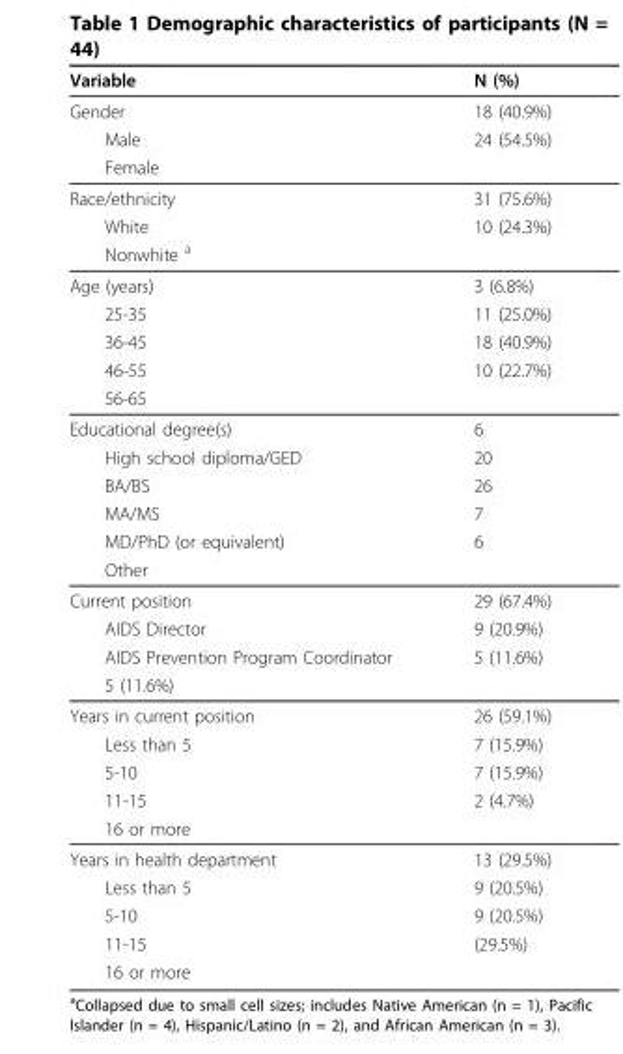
<table><thead><tr><td>Variable</td><td>N (%)</td></tr></thead><tbody><tr><td>Gender</td><td>18 (40.9%)</td></tr><tr><td>Male</td><td>24 (54.5%)</td></tr><tr><td colspan="2">Female</td></tr><tr><td>Race/ethnicity</td><td>31 (75.6%)</td></tr><tr><td>White</td><td>10 (24.3%)</td></tr><tr><td colspan="2">Nonwhite <sup>a</sup></td></tr><tr><td>Age (years)</td><td>3 (6.8%)</td></tr><tr><td>25-35</td><td>11 (25.0%)</td></tr><tr><td>36-45</td><td>18 (40.9%)</td></tr><tr><td>46-55</td><td>10 (22.7%)</td></tr><tr><td colspan="2">56-65</td></tr><tr><td>Educational degree(s)</td><td>6</td></tr><tr><td>High school diploma/GED</td><td>20</td></tr><tr><td>BA/BS</td><td>26</td></tr><tr><td>MA/MS</td><td>7</td></tr><tr><td>MD/PhD (or equivalent)</td><td>6</td></tr><tr><td colspan="2">Other</td></tr><tr><td>Current position</td><td>29 (67.4%)</td></tr><tr><td>AIDS Director</td><td>9 (20.9%)</td></tr><tr><td>AIDS Prevention Program Coordinator</td><td>5 (11.6%)</td></tr><tr><td colspan="2">5 (11.6%)</td></tr><tr><td>Years in current position</td><td>26 (59.1%)</td></tr><tr><td>Less than 5</td><td>7 (15.9%)</td></tr><tr><td>5-10</td><td>7 (15.9%)</td></tr><tr><td>11-15</td><td>2 (4.7%)</td></tr><tr><td colspan="2">16 or more</td></tr><tr><td>Years in health department</td><td>13 (29.5%)</td></tr><tr><td>Less than 5</td><td>9 (20.5%)</td></tr><tr><td>5-10</td><td>9 (20.5%)</td></tr><tr><td>11-15</td><td>(29.5%)</td></tr><tr><td>16 or more</td><td></td></tr></tbody></table>